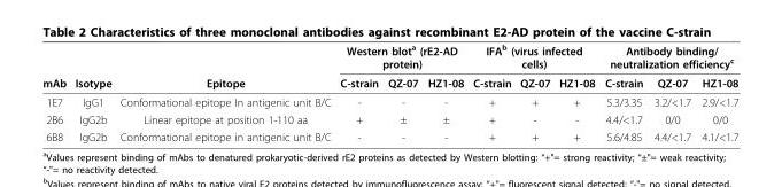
<table><thead><tr><td rowspan="2">mAb</td><td rowspan="2">Isotype</td><td rowspan="2">Epitope</td><td colspan="3">Western blot<sup>a</sup> (rE2-AD protein)</td><td colspan="3">IFA<sup>b</sup> (virus infected cells)</td><td colspan="3">Antibody binding/ neutralization efficiency<sup>c</sup></td></tr><tr><td>C-strain</td><td>QZ-07</td><td>HZ1-08</td><td>C-strain</td><td>QZ-07</td><td>HZ1-08</td><td>C-strain</td><td>QZ-07</td><td>HZ1-08</td></tr></thead><tbody><tr><td>1E7</td><td>IgG1</td><td>Conformational epitope In antigenic unit B/C</td><td>-</td><td>-</td><td>-</td><td>+</td><td>+</td><td>+</td><td>5.3/3.35</td><td>3.2/&lt;1.7</td><td>2.9/&lt;1.7</td></tr><tr><td>2B6</td><td>IgG2b</td><td>Linear epitope at position 1-110 aa</td><td>+</td><td>±</td><td>±</td><td>+</td><td>-</td><td>-</td><td>4.4/&lt;1.7</td><td>0/0</td><td>0/0</td></tr><tr><td>6B8</td><td>IgG2b</td><td>Conformational epitope in antigenic unit B/C</td><td>-</td><td>-</td><td>-</td><td>+</td><td>+</td><td>+</td><td>5.6/4.85</td><td>4.4/&lt;1.7</td><td>4.1/&lt;1.7</td></tr></tbody></table>